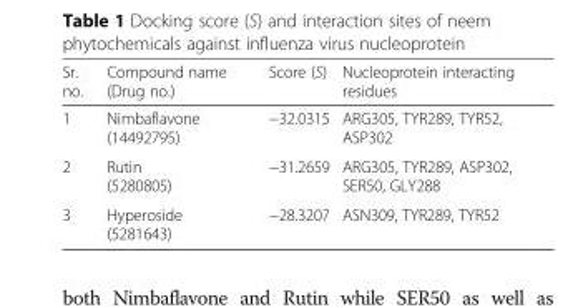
<table><thead><tr><td>Sr. no.</td><td>Compound name (Drug no.)</td><td>Score (S)</td><td>Nucleoprotein interacting residues</td></tr></thead><tbody><tr><td>1</td><td>Nimbaflavone (14492795)</td><td>−32.0315</td><td>ARG305, TYR289, TYR52, ASP302</td></tr><tr><td>2</td><td>Rutin (5280805)</td><td>−31.2659</td><td>ARG305, TYR289, ASP302, SER50, GLY288</td></tr><tr><td>3</td><td>Hyperoside (5281643)</td><td>−28.3207</td><td>ASN309, TYR289, TYR52</td></tr></tbody></table>